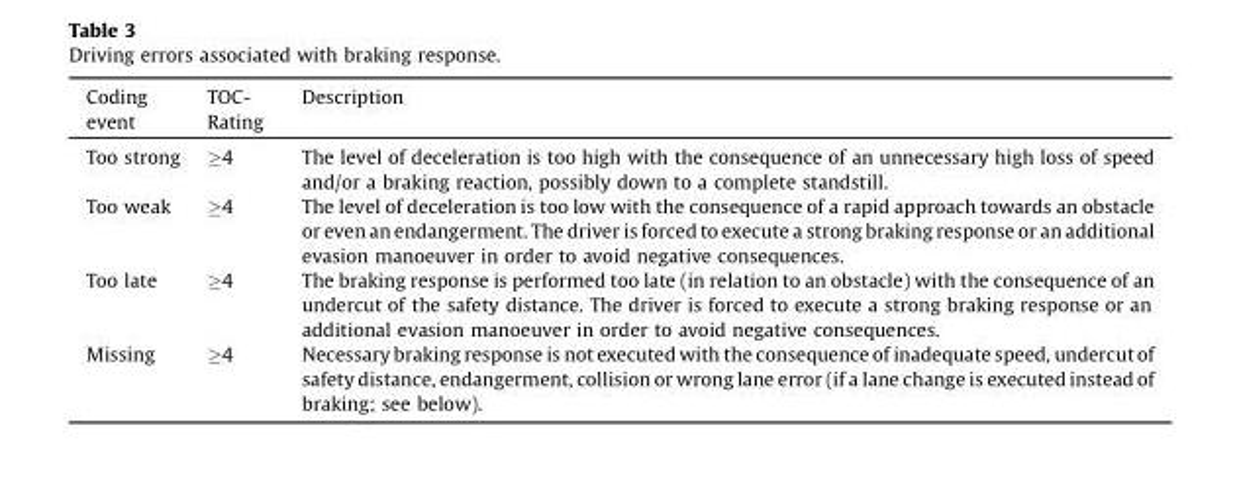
<table><thead><tr><td>Coding event</td><td>TOC- Rating</td><td>Description</td></tr></thead><tbody><tr><td>Too strong</td><td>≥4</td><td>The level of deceleration is too high with the consequence of an unnecessary high loss of speed and/or a braking reaction, possibly down to a complete standstill.</td></tr><tr><td>Too weak</td><td>≥4</td><td>The level of deceleration is too low with the consequence of a rapid approach towards an obstacle or even an endangerment. The driver is forced to execute a strong braking response or an additional evasion manoeuver in order to avoid negative consequences.</td></tr><tr><td>Too late</td><td>≥4</td><td>The braking response is performed too late (in relation to an obstacle) with the consequence of an undercut of the safety distance. The driver is forced to execute a strong braking response or an additional evasion manoeuver in order to avoid negative consequences.</td></tr><tr><td>Missing</td><td>≥4</td><td>Necessary braking response is not executed with the consequence of inadequate speed, undercut of safety distance, endangerment, collision or wrong lane error (if a lane change is executed instead of braking; see below).</td></tr></tbody></table>